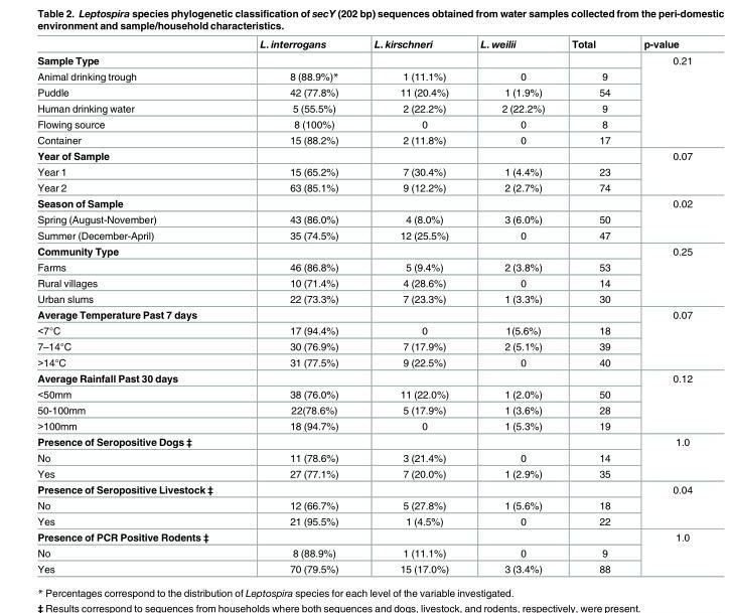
<table><thead><tr><td></td><td>L. interrogans</td><td>L. kirschneri</td><td>L. weilii</td><td>Total</td><td>p-value</td></tr></thead><tbody><tr><td colspan="5">Sample Type</td><td rowspan="6">0.21</td></tr><tr><td>Animal drinking trough</td><td>8 (88.9%)*</td><td>1 (11.1%)</td><td>0</td><td>9</td></tr><tr><td>Puddle</td><td>42 (77.8%)</td><td>11 (20.4%)</td><td>1 (1.9%)</td><td>54</td></tr><tr><td>Human drinking water</td><td>5 (55.5%)</td><td>2 (22.2%)</td><td>2 (22.2%)</td><td>9</td></tr><tr><td>Flowing source</td><td>8 (100%)</td><td>0</td><td>0</td><td>8</td></tr><tr><td>Container</td><td>15 (88.2%)</td><td>2 (11.8%)</td><td>0</td><td>17</td></tr><tr><td colspan="5">Year of Sample</td><td rowspan="3">0.07</td></tr><tr><td>Year 1</td><td>15 (65.2%)</td><td>7 (30.4%)</td><td>1 (4.4%)</td><td>23</td></tr><tr><td>Year 2</td><td>63 (85.1%)</td><td>9 (12.2%)</td><td>2 (2.7%)</td><td>74</td></tr><tr><td colspan="5">Season of Sample</td><td rowspan="3">0.02</td></tr><tr><td>Spring (August-November)</td><td>43 (86.0%)</td><td>4 (8.0%)</td><td>3 (6.0%)</td><td>50</td></tr><tr><td>Summer (December-April)</td><td>35 (74.5%)</td><td>12 (25.5%)</td><td>0</td><td>47</td></tr><tr><td colspan="5">Community Type</td><td rowspan="4">0.25</td></tr><tr><td>Farms</td><td>46 (86.8%)</td><td>5 (9.4%)</td><td>2 (3.8%)</td><td>53</td></tr><tr><td>Rural villages</td><td>10 (71.4%)</td><td>4 (28.6%)</td><td>0</td><td>14</td></tr><tr><td>Urban slums</td><td>22 (73.3%)</td><td>7 (23.3%)</td><td>1 (3.3%)</td><td>30</td></tr><tr><td colspan="5">Average Temperature Past 7 days</td><td rowspan="4">0.07</td></tr><tr><td>&lt;7°C</td><td>17 (94.4%)</td><td>0</td><td>1(5.6%)</td><td>18</td></tr><tr><td>7–14°C</td><td>30 (76.9%)</td><td>7 (17.9%)</td><td>2 (5.1%)</td><td>39</td></tr><tr><td>&gt;14°C</td><td>31 (77.5%)</td><td>9 (22.5%)</td><td>0</td><td>40</td></tr><tr><td colspan="5">Average Rainfall Past 30 days</td><td rowspan="4">0.12</td></tr><tr><td>&lt;50mm</td><td>38 (76.0%)</td><td>11 (22.0%)</td><td>1 (2.0%)</td><td>50</td></tr><tr><td>50-100mm</td><td>22(78.6%)</td><td>5 (17.9%)</td><td>1 (3.6%)</td><td>28</td></tr><tr><td>&gt;100mm</td><td>18 (94.7%)</td><td>0</td><td>1 (5.3%)</td><td>19</td></tr><tr><td colspan="5">Presence of Seropositive Dogs ‡</td><td rowspan="3">1.0</td></tr><tr><td>No</td><td>11 (78.6%)</td><td>3 (21.4%)</td><td>0</td><td>14</td></tr><tr><td>Yes</td><td>27 (77.1%)</td><td>7 (20.0%)</td><td>1 (2.9%)</td><td>35</td></tr><tr><td colspan="5">Presence of Seropositive Livestock ‡</td><td rowspan="3">0.04</td></tr><tr><td>No</td><td>12 (66.7%)</td><td>5 (27.8%)</td><td>1 (5.6%)</td><td>18</td></tr><tr><td>Yes</td><td>21 (95.5%)</td><td>1 (4.5%)</td><td>0</td><td>22</td></tr><tr><td colspan="5">Presence of PCR Positive Rodents ‡</td><td rowspan="3">1.0</td></tr><tr><td>No</td><td>8 (88.9%)</td><td>1 (11.1%)</td><td>0</td><td>9</td></tr><tr><td>Yes</td><td>70 (79.5%)</td><td>15 (17.0%)</td><td>3 (3.4%)</td><td>88</td></tr></tbody></table>